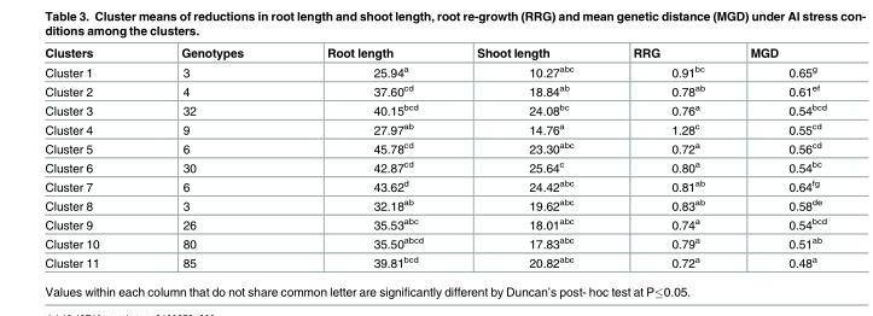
<table><thead><tr><td>Clusters</td><td>Genotypes</td><td>Root length</td><td>Shoot length</td><td>RRG</td><td>MGD</td></tr></thead><tbody><tr><td>Cluster 1</td><td>3</td><td>25.94<sup>a</sup></td><td>10.27<sup>abc</sup></td><td>0.91<sup>bc</sup></td><td>0.65<sup>g</sup></td></tr><tr><td>Cluster 2</td><td>4</td><td>37.60<sup>cd</sup></td><td>18.84<sup>ab</sup></td><td>0.78<sup>ab</sup></td><td>0.61<sup>ef</sup></td></tr><tr><td>Cluster 3</td><td>32</td><td>40.15<sup>bcd</sup></td><td>24.08<sup>bc</sup></td><td>0.76<sup>a</sup></td><td>0.54<sup>bcd</sup></td></tr><tr><td>Cluster 4</td><td>9</td><td>27.97<sup>ab</sup></td><td>14.76<sup>a</sup></td><td>1.28<sup>c</sup></td><td>0.55<sup>cd</sup></td></tr><tr><td>Cluster 5</td><td>6</td><td>45.78<sup>cd</sup></td><td>23.30<sup>abc</sup></td><td>0.72<sup>a</sup></td><td>0.56<sup>cd</sup></td></tr><tr><td>Cluster 6</td><td>30</td><td>42.87<sup>cd</sup></td><td>25.64<sup>c</sup></td><td>0.80<sup>a</sup></td><td>0.54<sup>bc</sup></td></tr><tr><td>Cluster 7</td><td>6</td><td>43.62<sup>d</sup></td><td>24.42<sup>abc</sup></td><td>0.81<sup>ab</sup></td><td>0.64<sup>fg</sup></td></tr><tr><td>Cluster 8</td><td>3</td><td>32.18<sup>ab</sup></td><td>19.62<sup>abc</sup></td><td>0.83<sup>ab</sup></td><td>0.58<sup>de</sup></td></tr><tr><td>Cluster 9</td><td>26</td><td>35.53<sup>abc</sup></td><td>18.01<sup>abc</sup></td><td>0.74<sup>a</sup></td><td>0.54<sup>bcd</sup></td></tr><tr><td>Cluster 10</td><td>80</td><td>35.50<sup>abcd</sup></td><td>17.83<sup>abc</sup></td><td>0.79<sup>a</sup></td><td>0.51<sup>ab</sup></td></tr><tr><td>Cluster 11</td><td>85</td><td>39.81<sup>bcd</sup></td><td>20.82<sup>abc</sup></td><td>0.72<sup>a</sup></td><td>0.48<sup>a</sup></td></tr></tbody></table>